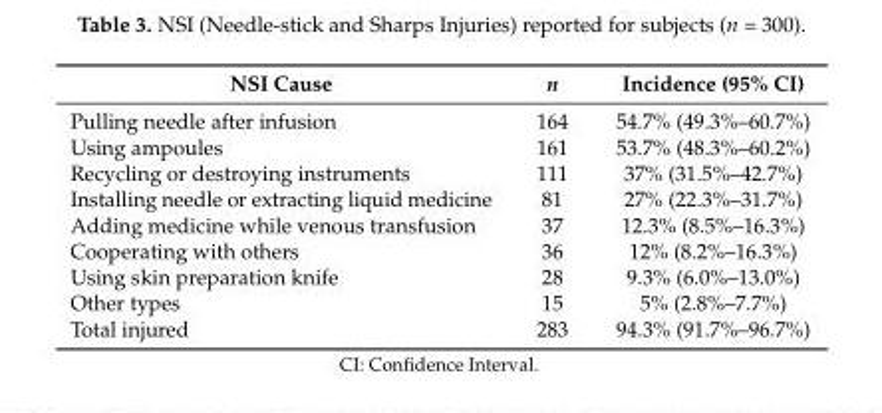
<table><thead><tr><td>NSI Cause</td><td>n</td><td>Incidence (95% CI)</td></tr></thead><tbody><tr><td>Pulling needle after infusion</td><td>164</td><td>54.7% (49.3%–60.7%)</td></tr><tr><td>Using ampoules</td><td>161</td><td>53.7% (48.3%–60.2%)</td></tr><tr><td>Recycling or destroying instruments</td><td>111</td><td>37% (31.5%–42.7%)</td></tr><tr><td>Installing needle or extracting liquid medicine</td><td>81</td><td>27% (22.3%–31.7%)</td></tr><tr><td>Adding medicine while venous transfusion</td><td>37</td><td>12.3% (8.5%–16.3%)</td></tr><tr><td>Cooperating with others</td><td>36</td><td>12% (8.2%–16.3%)</td></tr><tr><td>Using skin preparation knife</td><td>28</td><td>9.3% (6.0%–13.0%)</td></tr><tr><td>Other types</td><td>15</td><td>5% (2.8%–7.7%)</td></tr><tr><td>Total injured</td><td>283</td><td>94.3% (91.7%–96.7%)</td></tr></tbody></table>